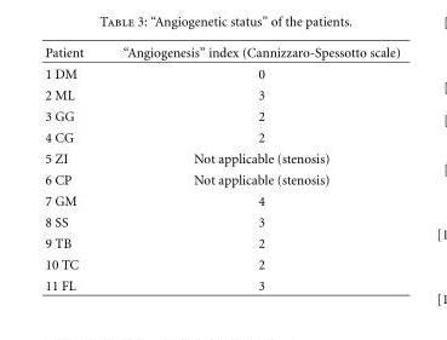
<table><thead><tr><td>Patient</td><td>“Angiogenesis” index (Cannizzaro-Spessotto scale)</td></tr></thead><tbody><tr><td>1 DM</td><td>0</td></tr><tr><td>2 ML</td><td>3</td></tr><tr><td>3 GG</td><td>2</td></tr><tr><td>4 CG</td><td>2</td></tr><tr><td>5 ZI</td><td>Not applicable (stenosis)</td></tr><tr><td>6 CP</td><td>Not applicable (stenosis)</td></tr><tr><td>7 GM</td><td>4</td></tr><tr><td>8 SS</td><td>3</td></tr><tr><td>9 TB</td><td>2</td></tr><tr><td>10 TC</td><td>2</td></tr><tr><td>11 FL</td><td>3</td></tr></tbody></table>